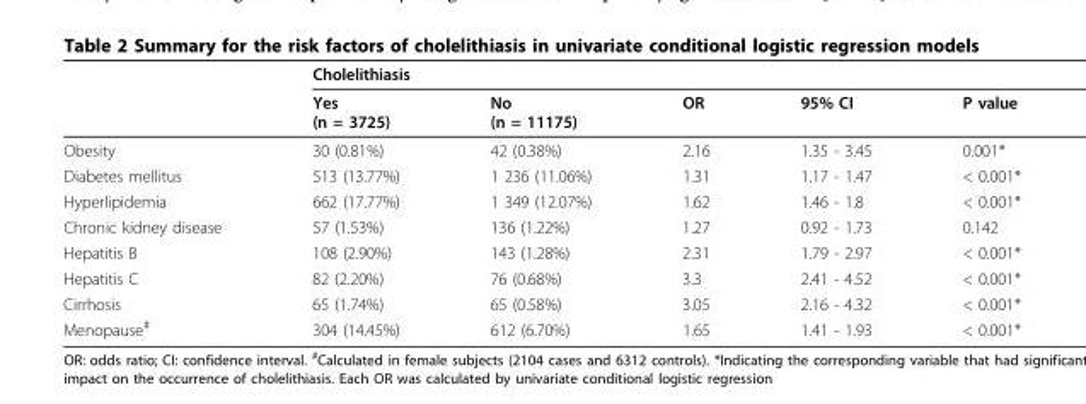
<table><thead><tr><td rowspan="2"></td><td colspan="2">Cholelithiasis</td><td rowspan="2">OR</td><td rowspan="2">95% CI</td><td rowspan="2">P value</td></tr><tr><td>Yes (n = 3725)</td><td>No (n = 11175)</td></tr></thead><tbody><tr><td>Obesity</td><td>30 (0.81%)</td><td>42 (0.38%)</td><td>2.16</td><td>1.35 - 3.45</td><td>0.001*</td></tr><tr><td>Diabetes mellitus</td><td>513 (13.77%)</td><td>1 236 (11.06%)</td><td>1.31</td><td>1.17 - 1.47</td><td>&lt; 0.001*</td></tr><tr><td>Hyperlipidemia</td><td>662 (17.77%)</td><td>1 349 (12.07%)</td><td>1.62</td><td>1.46 - 1.8</td><td>&lt; 0.001*</td></tr><tr><td>Chronic kidney disease</td><td>57 (1.53%)</td><td>136 (1.22%)</td><td>1.27</td><td>0.92 - 1.73</td><td>0.142</td></tr><tr><td>Hepatitis B</td><td>108 (2.90%)</td><td>143 (1.28%)</td><td>2.31</td><td>1.79 - 2.97</td><td>&lt; 0.001*</td></tr><tr><td>Hepatitis C</td><td>82 (2.20%)</td><td>76 (0.68%)</td><td>3.3</td><td>2.41 - 4.52</td><td>&lt; 0.001*</td></tr><tr><td>Cirrhosis</td><td>65 (1.74%)</td><td>65 (0.58%)</td><td>3.05</td><td>2.16 - 4.32</td><td>&lt; 0.001*</td></tr><tr><td>Menopause<sup>#</sup></td><td>304 (14.45%)</td><td>612 (6.70%)</td><td>1.65</td><td>1.41 - 1.93</td><td>&lt; 0.001*</td></tr></tbody></table>